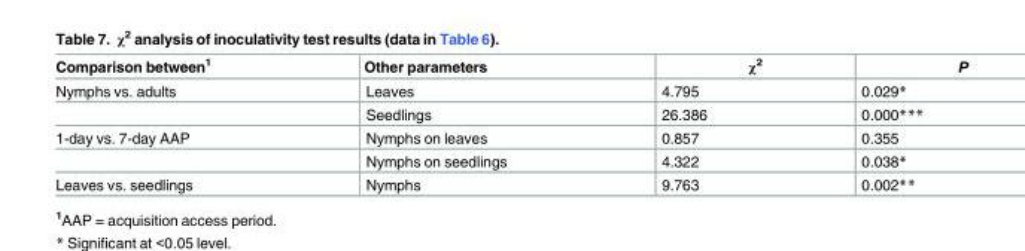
<table><thead><tr><td>Comparison between<sup>1</sup></td><td>Other parameters</td><td>χ<sup>2</sup></td><td>P</td></tr></thead><tbody><tr><td rowspan="2">Nymphs vs. adults</td><td>Leaves</td><td>4.795</td><td>0.029*</td></tr><tr><td>Seedlings</td><td>26.386</td><td>0.000***</td></tr><tr><td rowspan="2">1-day vs. 7-day AAP</td><td>Nymphs on leaves</td><td>0.857</td><td>0.355</td></tr><tr><td>Nymphs on seedlings</td><td>4.322</td><td>0.038*</td></tr><tr><td>Leaves vs. seedlings</td><td>Nymphs</td><td>9.763</td><td>0.002**</td></tr></tbody></table>